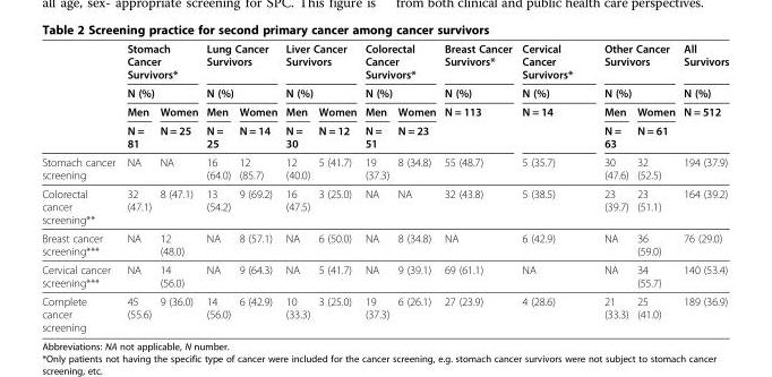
<table><thead><tr><td rowspan="4"></td><td rowspan="2" colspan="2">Stomach Cancer Survivors* N (%)</td><td rowspan="2" colspan="2">Lung Cancer Survivors N (%)</td><td rowspan="2" colspan="2">Liver Cancer Survivors N (%)</td><td rowspan="2" colspan="2">Colorectal Cancer Survivors* N (%)</td><td rowspan="4">Breast Cancer Survivors* N (%) N = 113</td><td rowspan="4">Cervical Cancer Survivors* N (%) N = 14</td><td rowspan="2" colspan="2">Other Cancer Survivors N (%)</td><td rowspan="4">All Survivors N (%) N = 512</td></tr><tr></tr><tr><td rowspan="2">Men N = 81</td><td rowspan="2">Women N = 25</td><td rowspan="2">Men N = 25</td><td rowspan="2">Women N = 14</td><td rowspan="2">Men N = 30</td><td rowspan="2">Women N = 12</td><td rowspan="2">Men N = 51</td><td rowspan="2">Women N = 23</td><td rowspan="2">Men N = 63</td><td rowspan="2">Women N = 61</td></tr><tr></tr></thead><tbody><tr><td>Stomach cancer screening</td><td>NA</td><td>NA</td><td>16 (64.0)</td><td>12 (85.7)</td><td>12 (40.0)</td><td>5 (41.7)</td><td>19 (37.3)</td><td>8 (34.8)</td><td>55 (48.7)</td><td>5 (35.7)</td><td>30 (47.6)</td><td>32 (52.5)</td><td>194 (37.9)</td></tr><tr><td>Colorectal cancer screening**</td><td>32 (47.1)</td><td>8 (47.1)</td><td>13 (54.2)</td><td>9 (69.2)</td><td>16 (47.5)</td><td>3 (25.0)</td><td>NA</td><td>NA</td><td>32 (43.8)</td><td>5 (38.5)</td><td>23 (39.7)</td><td>23 (51.1)</td><td>164 (39.2)</td></tr><tr><td>Breast cancer screening***</td><td>NA</td><td>12 (48.0)</td><td>NA</td><td>8 (57.1)</td><td>NA</td><td>6 (50.0)</td><td>NA</td><td>8 (34.8)</td><td>NA</td><td>6 (42.9)</td><td>NA</td><td>36 (59.0)</td><td>76 (29.0)</td></tr><tr><td>Cervical cancer screening***</td><td>NA</td><td>14 (56.0)</td><td>NA</td><td>9 (64.3)</td><td>NA</td><td>5 (41.7)</td><td>NA</td><td>9 (39.1)</td><td>69 (61.1)</td><td>NA</td><td>NA</td><td>34 (55.7)</td><td>140 (53.4)</td></tr><tr><td>Complete cancer screening</td><td>45 (55.6)</td><td>9 (36.0)</td><td>14 (56.0)</td><td>6 (42.9)</td><td>10 (33.3)</td><td>3 (25.0)</td><td>19 (37.3)</td><td>6 (26.1)</td><td>27 (23.9)</td><td>4 (28.6)</td><td>21 (33.3)</td><td>25 (41.0)</td><td>189 (36.9)</td></tr></tbody></table>